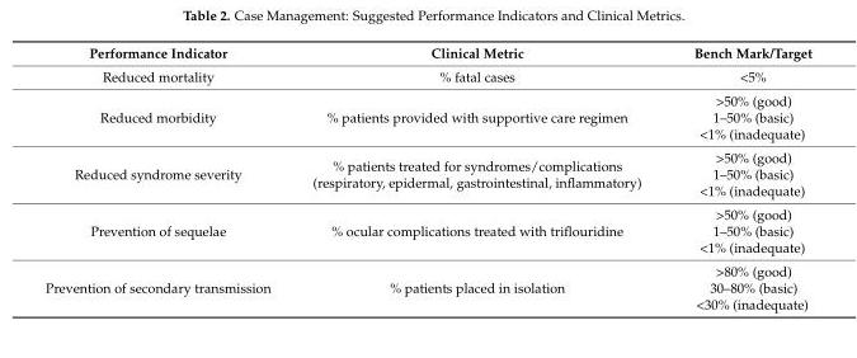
<table><thead><tr><td>Performance Indicator</td><td>Clinical Metric</td><td>Bench Mark/Target</td></tr></thead><tbody><tr><td>Reduced mortality</td><td>% fatal cases</td><td>&lt;5%</td></tr><tr><td>Reduced morbidity</td><td>% patients provided with supportive care regimen</td><td>&gt;50% (good) 1–50% (basic) &lt;1% (inadequate)</td></tr><tr><td>Reduced syndrome severity</td><td>% patients treated for syndromes/complications (respiratory, epidermal, gastrointestinal, inflammatory)</td><td>&gt;50% (good) 1–50% (basic) &lt;1% (inadequate)</td></tr><tr><td>Prevention of sequelae</td><td>% ocular complications treated with triflouridine</td><td>&gt;50% (good) 1–50% (basic) &lt;1% (inadequate)</td></tr><tr><td>Prevention of secondary transmission</td><td>% patients placed in isolation</td><td>&gt;80% (good) 30–80% (basic) &lt;30% (inadequate)</td></tr></tbody></table>